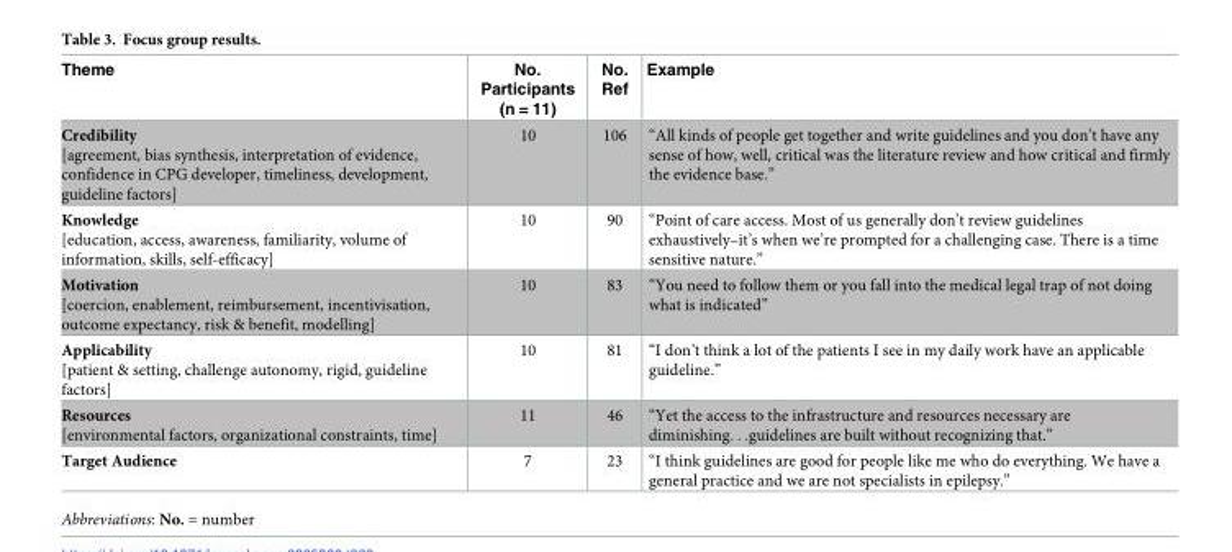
<table><thead><tr><td>Theme</td><td>No. Participants (n = 11)</td><td>No. Ref</td><td>Example</td></tr></thead><tbody><tr><td>Credibility [agreement, bias synthesis, interpretation of evidence, confidence in CPG developer, timeliness, development, guideline factors]</td><td>10</td><td>106</td><td>“All kinds of people get together and write guidelines and you don’t have any sense of how, well, critical was the literature review and how critical and firmly the evidence base.”</td></tr><tr><td>Knowledge [education, access, awareness, familiarity, volume of information, skills, self-efficacy]</td><td>10</td><td>90</td><td>“Point of care access. Most of us generally don’t review guidelines exhaustively–it’s when we’re prompted for a challenging case. There is a time sensitive nature.”</td></tr><tr><td>Motivation [coercion, enablement, reimbursement, incentivisation, outcome expectancy, risk &amp; benefit, modelling]</td><td>10</td><td>83</td><td>“You need to follow them or you fall into the medical legal trap of not doing what is indicated”</td></tr><tr><td>Applicability [patient &amp; setting, challenge autonomy, rigid, guideline factors]</td><td>10</td><td>81</td><td>“I don’t think a lot of the patients I see in my daily work have an applicable guideline.”</td></tr><tr><td>Resources [environmental factors, organizational constraints, time]</td><td>11</td><td>46</td><td>“Yet the access to the infrastructure and resources necessary are diminishing. . .guidelines are built without recognizing that.”</td></tr><tr><td>Target Audience</td><td>7</td><td>23</td><td>“I think guidelines are good for people like me who do everything. We have a general practice and we are not specialists in epilepsy.”</td></tr></tbody></table>